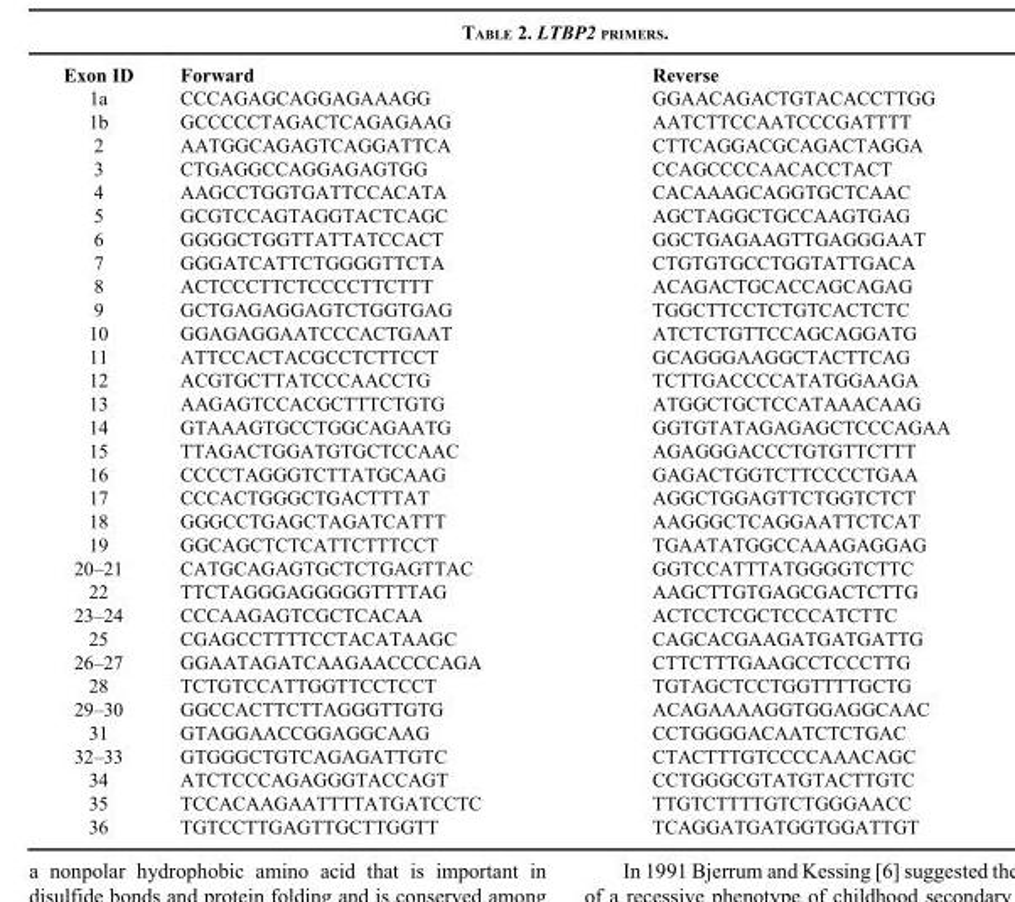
<table><thead><tr><td>Exon ID</td><td>Forward</td><td>Reverse</td></tr></thead><tbody><tr><td>1a</td><td>CCCAGAGCAGGAGAAAGG</td><td>GGAACAGACTGTACACCTTGG</td></tr><tr><td>1b</td><td>GCCCCCTAGACTCAGAGAAG</td><td>AATCTTCCAATCCCGATTTT</td></tr><tr><td>2</td><td>AATGGCAGAGTCAGGATTCA</td><td>CTTCAGGACGCAGACTAGGA</td></tr><tr><td>3</td><td>CTGAGGCCAGGAGAGTGG</td><td>CCAGCCCCAACACCTACT</td></tr><tr><td>4</td><td>AAGCCTGGTGATTCCACATA</td><td>CACAAAGCAGGTGCTCAAC</td></tr><tr><td>5</td><td>GCGTCCAGTAGGTACTCAGC</td><td>AGCTAGGCTGCCAAGTGAG</td></tr><tr><td>6</td><td>GGGGCTGGTTATTATCCACT</td><td>GGCTGAGAAGTTGAGGGAAT</td></tr><tr><td>7</td><td>GGGATCATTCTGGGGTTCTA</td><td>CTGTGTGCCTGGTATTGACA</td></tr><tr><td>8</td><td>ACTCCCTTCTCCCCTTCTTT</td><td>ACAGACTGCACCAGCAGAG</td></tr><tr><td>9</td><td>GCTGAGAGGAGTCTGGTGAG</td><td>TGGCTTCCTCTGTCACTCTC</td></tr><tr><td>10</td><td>GGAGAGGAATCCCACTGAAT</td><td>ATCTCTGTTCCAGCAGGATG</td></tr><tr><td>11</td><td>ATTCCACTACGCCTCTTCCT</td><td>GCAGGGAAGGCTACTTCAG</td></tr><tr><td>12</td><td>ACGTGCTTATCCCAACCTG</td><td>TCTTGACCCCATATGGAAGA</td></tr><tr><td>13</td><td>AAGAGTCCACGCTTTCTGTG</td><td>ATGGCTGCTCCATAAACAAG</td></tr><tr><td>14</td><td>GTAAAGTGCCTGGCAGAATG</td><td>GGTGTATAGAGAGCTCCCAGAA</td></tr><tr><td>15</td><td>TTAGACTGGATGTGCTCCAAC</td><td>AGAGGGACCCTGTGTTCTTT</td></tr><tr><td>16</td><td>CCCCTAGGGTCTTATGCAAG</td><td>GAGACTGGTCTTCCCCTGAA</td></tr><tr><td>17</td><td>CCCACTGGGCTGACTTTAT</td><td>AGGCTGGAGTTCTGGTCTCT</td></tr><tr><td>18</td><td>GGGCCTGAGCTAGATCATTT</td><td>AAGGGCTCAGGAATTCTCAT</td></tr><tr><td>19</td><td>GGCAGCTCTCATTCTTTCCT</td><td>TGAATATGGCCAAAGAGGAG</td></tr><tr><td>20–21</td><td>CATGCAGAGTGCTCTGAGTTAC</td><td>GGTCCATTTATGGGGTCTTC</td></tr><tr><td>22</td><td>TTCTAGGGAGGGGGTTTTAG</td><td>AAGCTTGTGAGCGACTCTTG</td></tr><tr><td>23–24</td><td>CCCAAGAGTCGCTCACAA</td><td>ACTCCTCGCTCCCATCTTC</td></tr><tr><td>25</td><td>CGAGCCTTTTCCTACATAAGC</td><td>CAGCACGAAGATGATGATTG</td></tr><tr><td>26–27</td><td>GGAATAGATCAAGAACCCCAGA</td><td>CTTCTTTGAAGCCTCCCTTG</td></tr><tr><td>28</td><td>TCTGTCCATTGGTTCCTCCT</td><td>TGTAGCTCCTGGTTTTGCTG</td></tr><tr><td>29–30</td><td>GGCCACTTCTTAGGGTTGTG</td><td>ACAGAAAAGGTGGAGGCAAC</td></tr><tr><td>31</td><td>GTAGGAACCGGAGGCAAG</td><td>CCTGGGGACAATCTCTGAC</td></tr><tr><td>32–33</td><td>GTGGGCTGTCAGAGATTGTC</td><td>CTACTTTGTCCCCAAACAGC</td></tr><tr><td>34</td><td>ATCTCCCAGAGGGTACCAGT</td><td>CCTGGGCGTATGTACTTGTC</td></tr><tr><td>35</td><td>TCCACAAGAATTTTATGATCCTC</td><td>TTGTCTTTTGTCTGGGAACC</td></tr><tr><td>36</td><td>TGTCCTTGAGTTGCTTGGTT</td><td>TCAGGATGATGGTGGATTGT</td></tr></tbody></table>